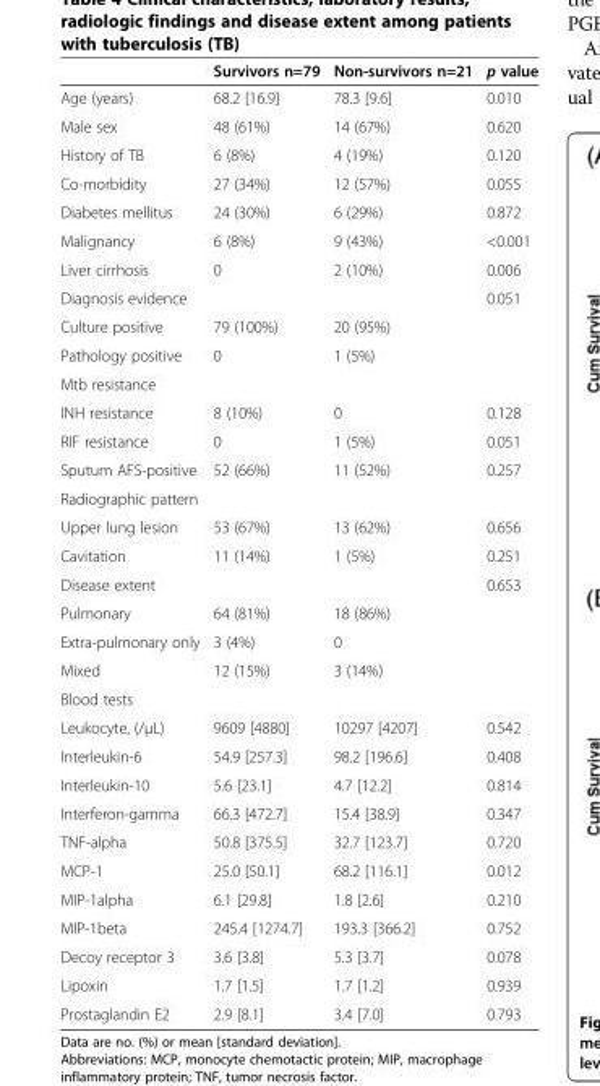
<table><thead><tr><td></td><td>Survivors n=79</td><td>Non-survivors n=21</td><td>p value</td></tr></thead><tbody><tr><td>Age (years)</td><td>68.2 [16.9]</td><td>78.3 [9.6]</td><td>0.010</td></tr><tr><td>Male sex</td><td>48 (61%)</td><td>14 (67%)</td><td>0.620</td></tr><tr><td>History of TB</td><td>6 (8%)</td><td>4 (19%)</td><td>0.120</td></tr><tr><td>Co-morbidity</td><td>27 (34%)</td><td>12 (57%)</td><td>0.055</td></tr><tr><td>Diabetes mellitus</td><td>24 (30%)</td><td>6 (29%)</td><td>0.872</td></tr><tr><td>Malignancy</td><td>6 (8%)</td><td>9 (43%)</td><td>&lt;0.001</td></tr><tr><td>Liver cirrhosis</td><td>0</td><td>2 (10%)</td><td>0.006</td></tr><tr><td>Diagnosis evidence</td><td></td><td></td><td>0.051</td></tr><tr><td>Culture positive</td><td>79 (100%)</td><td>20 (95%)</td><td></td></tr><tr><td>Pathology positive</td><td>0</td><td>1 (5%)</td><td></td></tr><tr><td colspan="4">Mtb resistance</td></tr><tr><td>INH resistance</td><td>8 (10%)</td><td>0</td><td>0.128</td></tr><tr><td>RIF resistance</td><td>0</td><td>1 (5%)</td><td>0.051</td></tr><tr><td>Sputum AFS-positive</td><td>52 (66%)</td><td>11 (52%)</td><td>0.257</td></tr><tr><td colspan="4">Radiographic pattern</td></tr><tr><td>Upper lung lesion</td><td>53 (67%)</td><td>13 (62%)</td><td>0.656</td></tr><tr><td>Cavitation</td><td>11 (14%)</td><td>1 (5%)</td><td>0.251</td></tr><tr><td>Disease extent</td><td></td><td></td><td>0.653</td></tr><tr><td>Pulmonary</td><td>64 (81%)</td><td>18 (86%)</td><td></td></tr><tr><td>Extra-pulmonary only</td><td>3 (4%)</td><td>0</td><td></td></tr><tr><td>Mixed</td><td>12 (15%)</td><td>3 (14%)</td><td></td></tr><tr><td colspan="4">Blood tests</td></tr><tr><td>Leukocyte, (/μL)</td><td>9609 [4880]</td><td>10297 [4207]</td><td>0.542</td></tr><tr><td>Interleukin-6</td><td>54.9 [257.3]</td><td>98.2 [196.6]</td><td>0.408</td></tr><tr><td>Interleukin-10</td><td>5.6 [23.1]</td><td>4.7 [12.2]</td><td>0.814</td></tr><tr><td>Interferon-gamma</td><td>66.3 [472.7]</td><td>15.4 [38.9]</td><td>0.347</td></tr><tr><td>TNF-alpha</td><td>50.8 [375.5]</td><td>32.7 [123.7]</td><td>0.720</td></tr><tr><td>MCP-1</td><td>25.0 [50.1]</td><td>68.2 [116.1]</td><td>0.012</td></tr><tr><td>MIP-1alpha</td><td>6.1 [29.8]</td><td>1.8 [2.6]</td><td>0.210</td></tr><tr><td>MIP-1beta</td><td>245.4 [1274.7]</td><td>193.3 [366.2]</td><td>0.752</td></tr><tr><td>Decoy receptor 3</td><td>3.6 [3.8]</td><td>5.3 [3.7]</td><td>0.078</td></tr><tr><td>Lipoxin</td><td>1.7 [1.5]</td><td>1.7 [1.2]</td><td>0.939</td></tr><tr><td>Prostaglandin E2</td><td>2.9 [8.1]</td><td>3.4 [7.0]</td><td>0.793</td></tr></tbody></table>